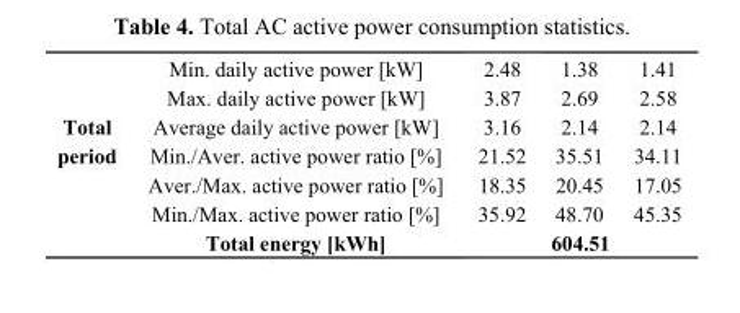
<table><tbody><tr><td rowspan="7">Total period</td><td>Min. daily active power [kW]</td><td>2.48</td><td>1.38</td><td>1.41</td></tr><tr><td>Max. daily active power [kW]</td><td>3.87</td><td>2.69</td><td>2.58</td></tr><tr><td>Average daily active power [kW]</td><td>3.16</td><td>2.14</td><td>2.14</td></tr><tr><td>Min./Aver. active power ratio [%]</td><td>21.52</td><td>35.51</td><td>34.11</td></tr><tr><td>Aver./Max. active power ratio [%]</td><td>18.35</td><td>20.45</td><td>17.05</td></tr><tr><td>Min./Max. active power ratio [%]</td><td>35.92</td><td>48.70</td><td>45.35</td></tr><tr><td>Total energy [kWh]</td><td colspan="3">604.51</td></tr></tbody></table>